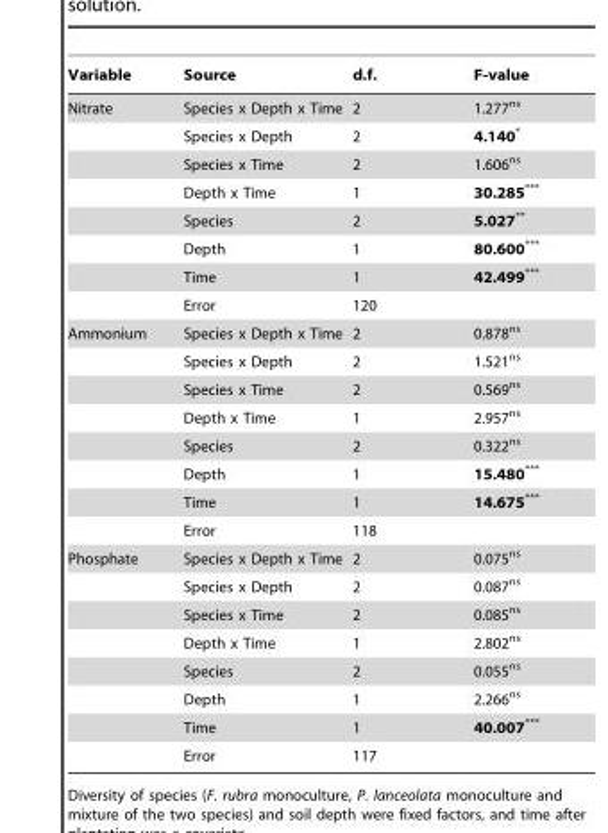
<table><thead><tr><td>Variable</td><td>Source</td><td>d.f.</td><td>F-value</td></tr></thead><tbody><tr><td rowspan="8">Nitrate</td><td>Species x Depth x Time</td><td>2</td><td>1.277<sup>ns</sup></td></tr><tr><td>Species x Depth</td><td>2</td><td>4.140*</td></tr><tr><td>Species x Time</td><td>2</td><td>1.606<sup>ns</sup></td></tr><tr><td>Depth x Time</td><td>1</td><td>30.285***</td></tr><tr><td>Species</td><td>2</td><td>5.027**</td></tr><tr><td>Depth</td><td>1</td><td>80.600***</td></tr><tr><td>Time</td><td>1</td><td>42.499***</td></tr><tr><td>Error</td><td>120</td><td></td></tr><tr><td rowspan="8">Ammonium</td><td>Species x Depth x Time</td><td>2</td><td>0.878<sup>ns</sup></td></tr><tr><td>Species x Depth</td><td>2</td><td>1.521<sup>ns</sup></td></tr><tr><td>Species x Time</td><td>2</td><td>0.569<sup>ns</sup></td></tr><tr><td>Depth x Time</td><td>1</td><td>2.957<sup>ns</sup></td></tr><tr><td>Species</td><td>2</td><td>0.322<sup>ns</sup></td></tr><tr><td>Depth</td><td>1</td><td>15.480***</td></tr><tr><td>Time</td><td>1</td><td>14.675***</td></tr><tr><td>Error</td><td>118</td><td></td></tr><tr><td rowspan="8">Phosphate</td><td>Species x Depth x Time</td><td>2</td><td>0.075<sup>ns</sup></td></tr><tr><td>Species x Depth</td><td>2</td><td>0.087<sup>ns</sup></td></tr><tr><td>Species x Time</td><td>2</td><td>0.085<sup>ns</sup></td></tr><tr><td>Depth x Time</td><td>1</td><td>2.802<sup>ns</sup></td></tr><tr><td>Species</td><td>2</td><td>0.055<sup>ns</sup></td></tr><tr><td>Depth</td><td>1</td><td>2.266<sup>ns</sup></td></tr><tr><td>Time</td><td>1</td><td>40.007***</td></tr><tr><td>Error</td><td>117</td><td></td></tr></tbody></table>